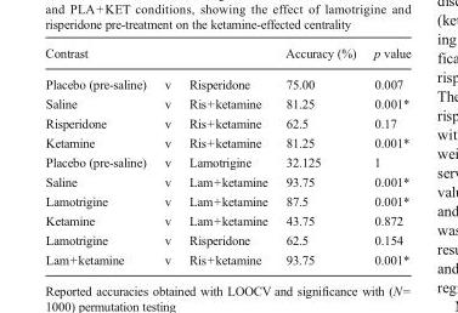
<table><thead><tr><td>Contrast</td><td></td><td></td><td>Accuracy (%)</td><td>p value</td></tr></thead><tbody><tr><td>Placebo (pre-saline)</td><td>v</td><td>Risperidone</td><td>75.00</td><td>0.007</td></tr><tr><td>Saline</td><td>v</td><td>Ris+ketamine</td><td>81.25</td><td>0.001*</td></tr><tr><td>Risperidone</td><td>v</td><td>Ris+ketamine</td><td>62.5</td><td>0.17</td></tr><tr><td>Ketamine</td><td>v</td><td>Ris+ketamine</td><td>81.25</td><td>0.001*</td></tr><tr><td>Placebo (pre-saline)</td><td>v</td><td>Lamotrigine</td><td>32.125</td><td>1</td></tr><tr><td>Saline</td><td>v</td><td>Lam+ketamine</td><td>93.75</td><td>0.001*</td></tr><tr><td>Lamotrigine</td><td>v</td><td>Lam+ketamine</td><td>87.5</td><td>0.001*</td></tr><tr><td>Ketamine</td><td>v</td><td>Lam+ketamine</td><td>43.75</td><td>0.872</td></tr><tr><td>Lamotrigine</td><td>v</td><td>Risperidone</td><td>62.5</td><td>0.154</td></tr><tr><td>Lam+ketamine</td><td>v</td><td>Ris+ketamine</td><td>93.75</td><td>0.001*</td></tr></tbody></table>